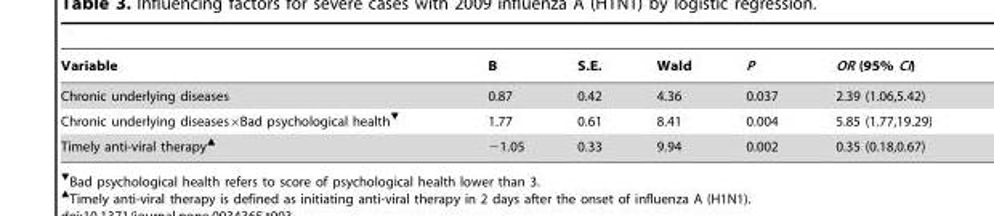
<table><thead><tr><td>Variable</td><td>B</td><td>S.E.</td><td>Wald</td><td>P</td><td>OR (95% CI)</td></tr></thead><tbody><tr><td>Chronic underlying diseases</td><td>0.87</td><td>0.42</td><td>4.36</td><td>0.037</td><td>2.39 (1.06,5.42)</td></tr><tr><td>Chronic underlying diseases×Bad psychological health▾</td><td>1.77</td><td>0.61</td><td>8.41</td><td>0.004</td><td>5.85 (1.77,19.29)</td></tr><tr><td>Timely anti-viral therapy▴</td><td>−1.05</td><td>0.33</td><td>9.94</td><td>0.002</td><td>0.35 (0.18,0.67)</td></tr></tbody></table>